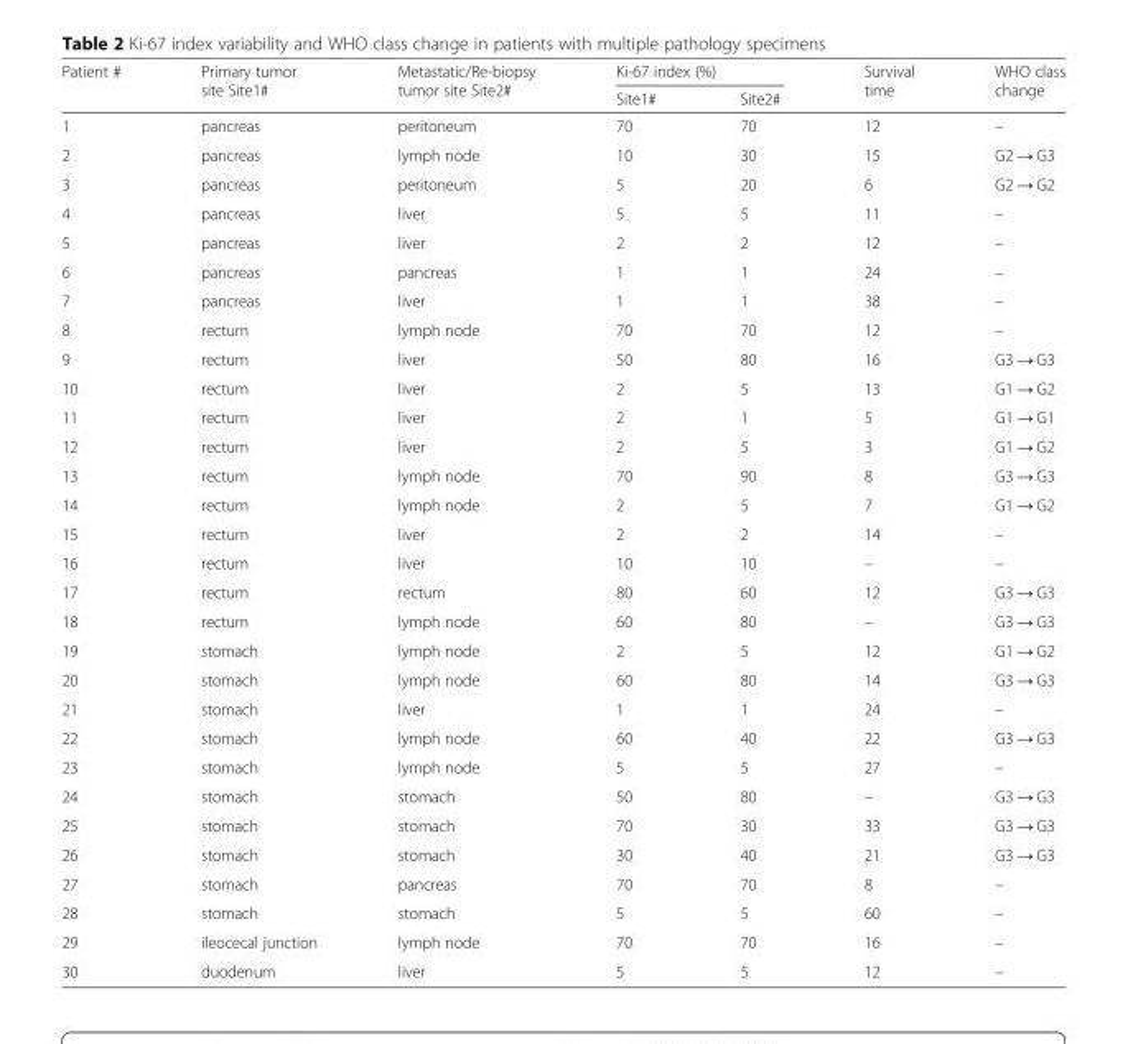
<table><thead><tr><td rowspan="2">Patient #</td><td rowspan="2">Primary tumor site Site1#</td><td rowspan="2">Metastatic/Re-biopsy tumor site Site2#</td><td colspan="2">Ki-67 index (%)</td><td rowspan="2">Survival time</td><td rowspan="2">WHO class change</td></tr><tr><td>Site1#</td><td>Site2#</td></tr></thead><tbody><tr><td>1</td><td>pancreas</td><td>peritoneum</td><td>70</td><td>70</td><td>12</td><td>–</td></tr><tr><td>2</td><td>pancreas</td><td>lymph node</td><td>10</td><td>30</td><td>15</td><td>G2 → G3</td></tr><tr><td>3</td><td>pancreas</td><td>peritoneum</td><td>5</td><td>20</td><td>6</td><td>G2 → G2</td></tr><tr><td>4</td><td>pancreas</td><td>liver</td><td>5</td><td>5</td><td>11</td><td>–</td></tr><tr><td>5</td><td>pancreas</td><td>liver</td><td>2</td><td>2</td><td>12</td><td>–</td></tr><tr><td>6</td><td>pancreas</td><td>pancreas</td><td>1</td><td>1</td><td>24</td><td>–</td></tr><tr><td>7</td><td>pancreas</td><td>liver</td><td>1</td><td>1</td><td>38</td><td>–</td></tr><tr><td>8</td><td>rectum</td><td>lymph node</td><td>70</td><td>70</td><td>12</td><td>–</td></tr><tr><td>9</td><td>rectum</td><td>liver</td><td>50</td><td>80</td><td>16</td><td>G3 → G3</td></tr><tr><td>10</td><td>rectum</td><td>liver</td><td>2</td><td>5</td><td>13</td><td>G1 → G2</td></tr><tr><td>11</td><td>rectum</td><td>liver</td><td>2</td><td>1</td><td>5</td><td>G1 → G1</td></tr><tr><td>12</td><td>rectum</td><td>liver</td><td>2</td><td>5</td><td>3</td><td>G1 → G2</td></tr><tr><td>13</td><td>rectum</td><td>lymph node</td><td>70</td><td>90</td><td>8</td><td>G3 → G3</td></tr><tr><td>14</td><td>rectum</td><td>lymph node</td><td>2</td><td>5</td><td>7</td><td>G1 → G2</td></tr><tr><td>15</td><td>rectum</td><td>liver</td><td>2</td><td>2</td><td>14</td><td>–</td></tr><tr><td>16</td><td>rectum</td><td>liver</td><td>10</td><td>10</td><td>–</td><td>–</td></tr><tr><td>17</td><td>rectum</td><td>rectum</td><td>80</td><td>60</td><td>12</td><td>G3 → G3</td></tr><tr><td>18</td><td>rectum</td><td>lymph node</td><td>60</td><td>80</td><td>–</td><td>G3 → G3</td></tr><tr><td>19</td><td>stomach</td><td>lymph node</td><td>2</td><td>5</td><td>12</td><td>G1 → G2</td></tr><tr><td>20</td><td>stomach</td><td>lymph node</td><td>60</td><td>80</td><td>14</td><td>G3 → G3</td></tr><tr><td>21</td><td>stomach</td><td>liver</td><td>1</td><td>1</td><td>24</td><td>–</td></tr><tr><td>22</td><td>stomach</td><td>lymph node</td><td>60</td><td>40</td><td>22</td><td>G3 → G3</td></tr><tr><td>23</td><td>stomach</td><td>lymph node</td><td>5</td><td>5</td><td>27</td><td>–</td></tr><tr><td>24</td><td>stomach</td><td>stomach</td><td>50</td><td>80</td><td>–</td><td>G3 → G3</td></tr><tr><td>25</td><td>stomach</td><td>stomach</td><td>70</td><td>30</td><td>33</td><td>G3 → G3</td></tr><tr><td>26</td><td>stomach</td><td>stomach</td><td>30</td><td>40</td><td>21</td><td>G3 → G3</td></tr><tr><td>27</td><td>stomach</td><td>pancreas</td><td>70</td><td>70</td><td>8</td><td>–</td></tr><tr><td>28</td><td>stomach</td><td>stomach</td><td>5</td><td>5</td><td>60</td><td>–</td></tr><tr><td>29</td><td>ileocecal junction</td><td>lymph node</td><td>70</td><td>70</td><td>16</td><td>–</td></tr><tr><td>30</td><td>duodenum</td><td>liver</td><td>5</td><td>5</td><td>12</td><td>–</td></tr></tbody></table>